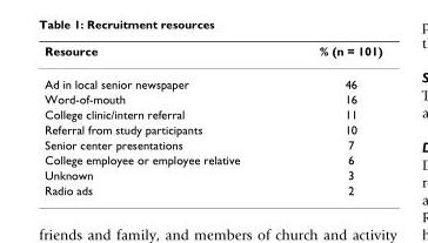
<table><thead><tr><td>Resource</td><td>% (n = 101)</td></tr></thead><tbody><tr><td>Ad in local senior newspaper</td><td>46</td></tr><tr><td>Word-of-mouth</td><td>16</td></tr><tr><td>College clinic/intern referral</td><td>11</td></tr><tr><td>Referral from study participants</td><td>10</td></tr><tr><td>Senior center presentations</td><td>7</td></tr><tr><td>College employee or employee relative</td><td>6</td></tr><tr><td>Unknown</td><td>3</td></tr><tr><td>Radio ads</td><td>2</td></tr></tbody></table>